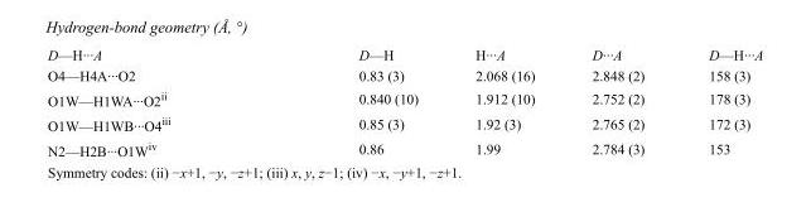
<table><tbody><tr><td>D—H···A</td><td>D—H</td><td>H···A</td><td>D···A</td><td>D—H···A</td></tr><tr><td>O4—H4A···O2</td><td>0.83 (3)</td><td>2.068 (16)</td><td>2.848 (2)</td><td>158 (3)</td></tr><tr><td>O1W—H1WA···O2<sup>ii</sup></td><td>0.840 (10)</td><td>1.912 (10)</td><td>2.752 (2)</td><td>178 (3)</td></tr><tr><td>O1W—H1WB···O4<sup>iii</sup></td><td>0.85 (3)</td><td>1.92 (3)</td><td>2.765 (2)</td><td>172 (3)</td></tr><tr><td>N2—H2B···O1W<sup>iv</sup></td><td>0.86</td><td>1.99</td><td>2.784 (3)</td><td>153</td></tr></tbody></table>